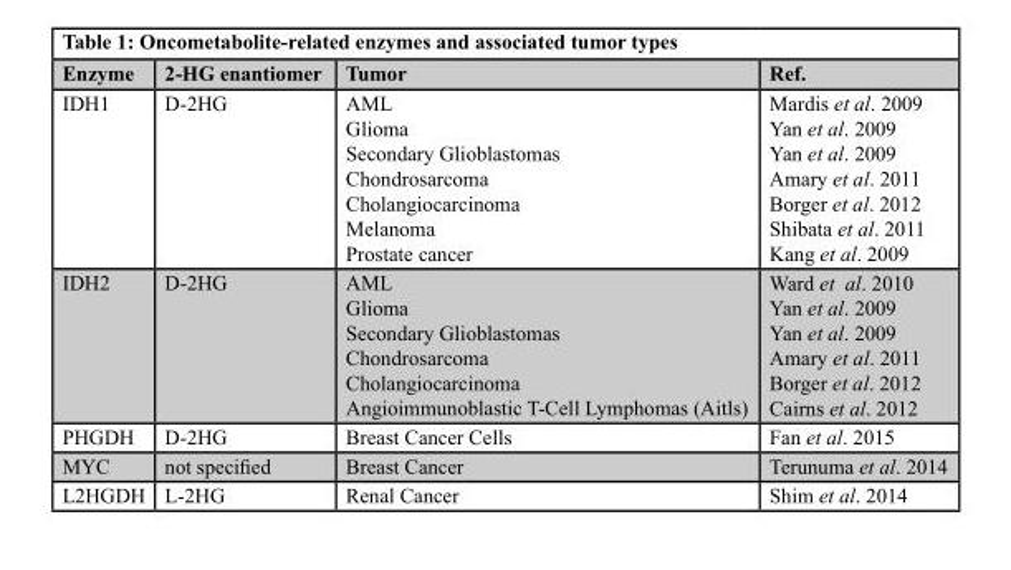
<table><thead><tr><td>Enzyme</td><td>2-HG enantiomer</td><td>Tumor</td><td>Ref.</td></tr></thead><tbody><tr><td>IDH1</td><td>D-2HG</td><td>AML Glioma Secondary Glioblastomas Chondrosarcoma Cholangiocarcinoma Melanoma Prostate cancer</td><td>Mardis et al. 2009 Yan et al. 2009 Yan et al. 2009 Amary et al. 2011 Borger et al. 2012 Shibata et al. 2011 Kang et al. 2009</td></tr><tr><td>IDH2</td><td>D-2HG</td><td>AML Glioma Secondary Glioblastomas Chondrosarcoma Cholangiocarcinoma Angioimmunoblastic T-Cell Lymphomas (Aitls)</td><td>Ward et al. 2010 Yan et al. 2009 Yan et al. 2009 Amary et al. 2011 Borger et al. 2012 Cairns et al. 2012</td></tr><tr><td>PHGDH</td><td>D-2HG</td><td>Breast Cancer Cells</td><td>Fan et al. 2015</td></tr><tr><td>MYC</td><td>not specified</td><td>Breast Cancer</td><td>Terunuma et al. 2014</td></tr><tr><td>L2HGDH</td><td>L-2HG</td><td>Renal Cancer</td><td>Shim et al. 2014</td></tr></tbody></table>